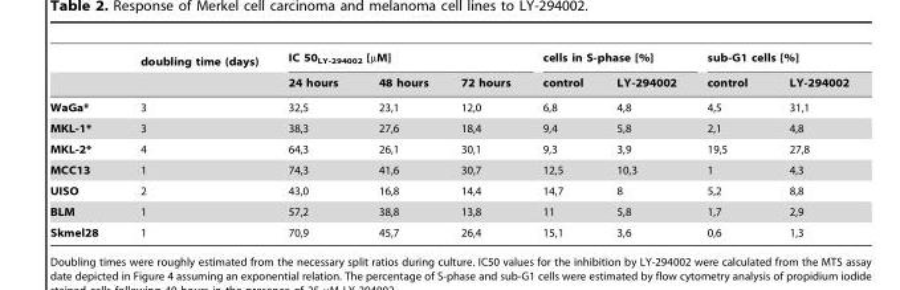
<table><thead><tr><td rowspan="2"></td><td rowspan="2">doubling time (days)</td><td colspan="3">IC 50<sub>LY-294002</sub> [µM]</td><td colspan="2">cells in S-phase [%]</td><td colspan="2">sub-G1 cells [%]</td></tr><tr><td>24 hours</td><td>48 hours</td><td>72 hours</td><td>control</td><td>LY-294002</td><td>control</td><td>LY-294002</td></tr></thead><tbody><tr><td>WaGa*</td><td>3</td><td>32,5</td><td>23,1</td><td>12,0</td><td>6,8</td><td>4,8</td><td>4,5</td><td>31,1</td></tr><tr><td>MKL-1*</td><td>3</td><td>38,3</td><td>27,6</td><td>18,4</td><td>9,4</td><td>5,8</td><td>2,1</td><td>4,8</td></tr><tr><td>MKL-2*</td><td>4</td><td>64,3</td><td>26,1</td><td>30,1</td><td>9,3</td><td>3,9</td><td>19,5</td><td>27,8</td></tr><tr><td>MCC13</td><td>1</td><td>74,3</td><td>41,6</td><td>30,7</td><td>12,5</td><td>10,3</td><td>1</td><td>4,3</td></tr><tr><td>UISO</td><td>2</td><td>43,0</td><td>16,8</td><td>14,4</td><td>14,7</td><td>8</td><td>5,2</td><td>8,8</td></tr><tr><td>BLM</td><td>1</td><td>57,2</td><td>38,8</td><td>13,8</td><td>11</td><td>5,8</td><td>1,7</td><td>2,9</td></tr><tr><td>Skmel28</td><td>1</td><td>70,9</td><td>45,7</td><td>26,4</td><td>15,1</td><td>3,6</td><td>0,6</td><td>1,3</td></tr></tbody></table>